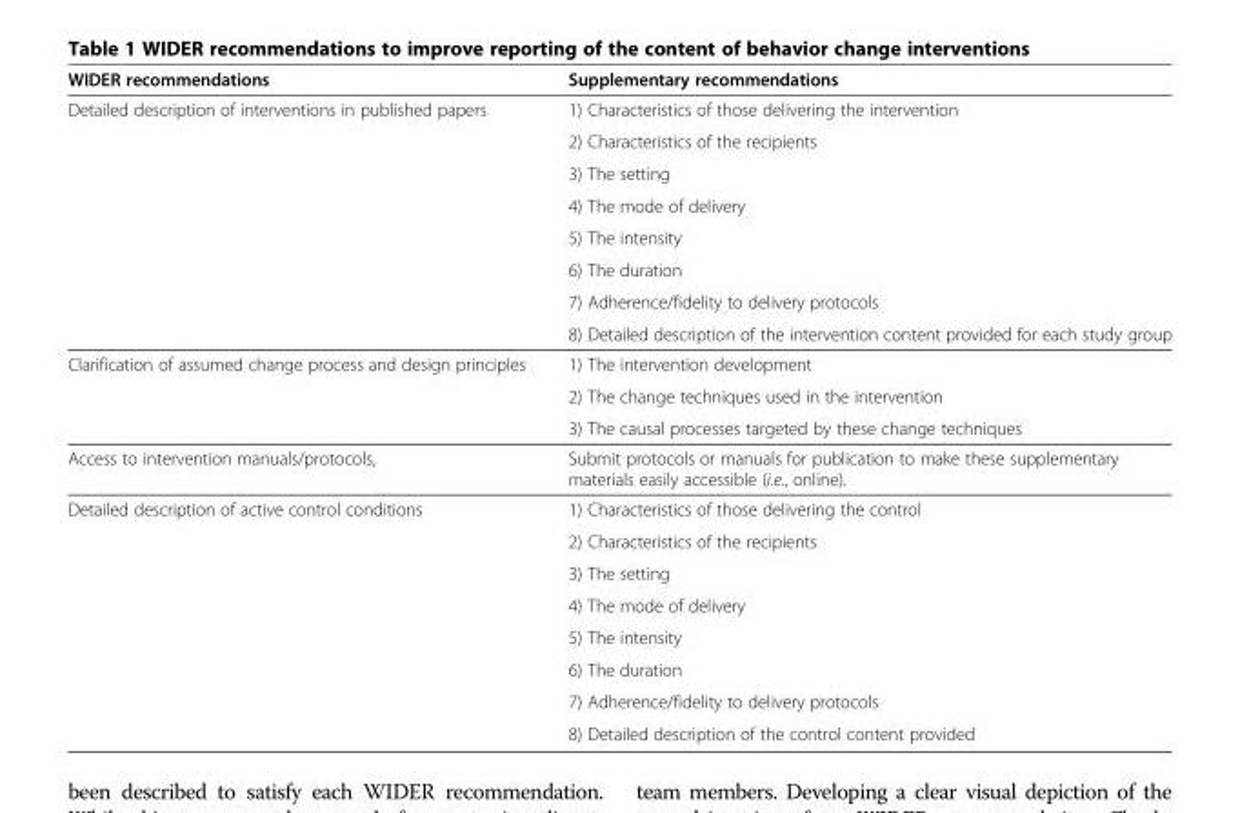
<table><thead><tr><td>WIDER recommendations</td><td>Supplementary recommendations</td></tr></thead><tbody><tr><td rowspan="8">Detailed description of interventions in published papers</td><td>1) Characteristics of those delivering the intervention</td></tr><tr><td>2) Characteristics of the recipients</td></tr><tr><td>3) The setting</td></tr><tr><td>4) The mode of delivery</td></tr><tr><td>5) The intensity</td></tr><tr><td>6) The duration</td></tr><tr><td>7) Adherence/fidelity to delivery protocols</td></tr><tr><td>8) Detailed description of the intervention content provided for each study group</td></tr><tr><td rowspan="3">Clarification of assumed change process and design principles</td><td>1) The intervention development</td></tr><tr><td>2) The change techniques used in the intervention</td></tr><tr><td>3) The causal processes targeted by these change techniques</td></tr><tr><td>Access to intervention manuals/protocols,</td><td>Submit protocols or manuals for publication to make these supplementary materials easily accessible (i.e., online).</td></tr><tr><td rowspan="8">Detailed description of active control conditions</td><td>1) Characteristics of those delivering the control</td></tr><tr><td>2) Characteristics of the recipients</td></tr><tr><td>3) The setting</td></tr><tr><td>4) The mode of delivery</td></tr><tr><td>5) The intensity</td></tr><tr><td>6) The duration</td></tr><tr><td>7) Adherence/fidelity to delivery protocols</td></tr><tr><td>8) Detailed description of the control content provided</td></tr></tbody></table>